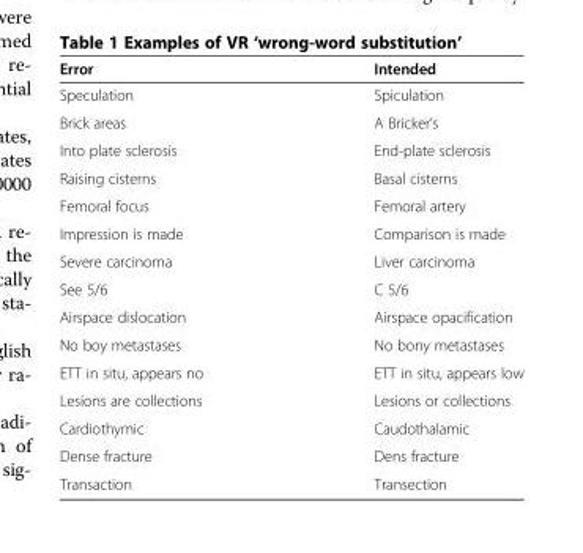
<table><thead><tr><td>Error</td><td>Intended</td></tr></thead><tbody><tr><td>Speculation</td><td>Spiculation</td></tr><tr><td>Brick areas</td><td>A Bricker’s</td></tr><tr><td>Into plate sclerosis</td><td>End-plate sclerosis</td></tr><tr><td>Raising cisterns</td><td>Basal cisterns</td></tr><tr><td>Femoral focus</td><td>Femoral artery</td></tr><tr><td>Impression is made</td><td>Comparison is made</td></tr><tr><td>Severe carcinoma</td><td>Liver carcinoma</td></tr><tr><td>See 5/6</td><td>C 5/6</td></tr><tr><td>Airspace dislocation</td><td>Airspace opacification</td></tr><tr><td>No boy metastases</td><td>No bony metastases</td></tr><tr><td>ETT in situ, appears no</td><td>ETT in situ, appears low</td></tr><tr><td>Lesions are collections</td><td>Lesions or collections</td></tr><tr><td>Cardiothymic</td><td>Caudothalamic</td></tr><tr><td>Dense fracture</td><td>Dens fracture</td></tr><tr><td>Transaction</td><td>Transection</td></tr></tbody></table>